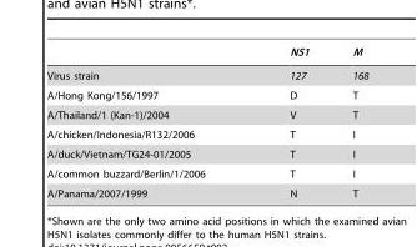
<table><thead><tr><td></td><td>NS1</td><td>M</td></tr></thead><tbody><tr><td>Virus strain</td><td>127</td><td>168</td></tr><tr><td>A/Hong Kong/156/1997</td><td>D</td><td>T</td></tr><tr><td>A/Thailand/1 (Kan-1)/2004</td><td>V</td><td>T</td></tr><tr><td>A/chicken/Indonesia/R132/2006</td><td>T</td><td>I</td></tr><tr><td>A/duck/Vietnam/TG24-01/2005</td><td>T</td><td>I</td></tr><tr><td>A/common buzzard/Berlin/1/2006</td><td>T</td><td>I</td></tr><tr><td>A/Panama/2007/1999</td><td>N</td><td>T</td></tr></tbody></table>